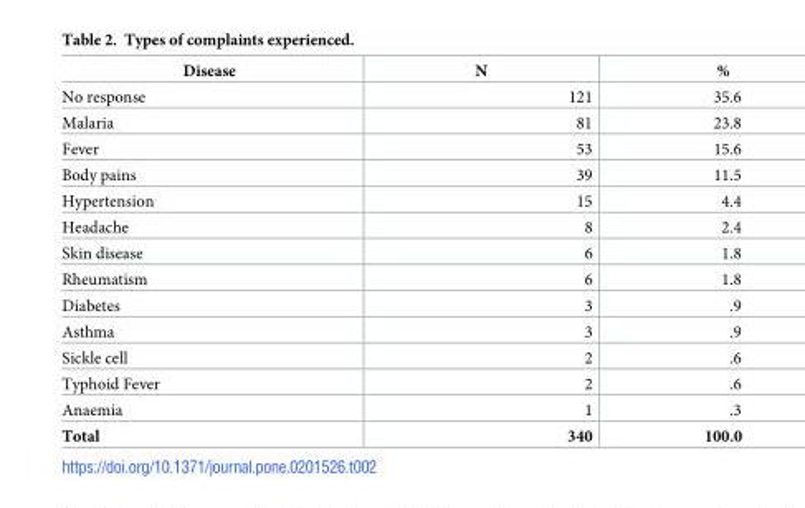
<table><thead><tr><td>Disease</td><td>N</td><td>%</td></tr></thead><tbody><tr><td>No response</td><td>121</td><td>35.6</td></tr><tr><td>Malaria</td><td>81</td><td>23.8</td></tr><tr><td>Fever</td><td>53</td><td>15.6</td></tr><tr><td>Body pains</td><td>39</td><td>11.5</td></tr><tr><td>Hypertension</td><td>15</td><td>4.4</td></tr><tr><td>Headache</td><td>8</td><td>2.4</td></tr><tr><td>Skin disease</td><td>6</td><td>1.8</td></tr><tr><td>Rheumatism</td><td>6</td><td>1.8</td></tr><tr><td>Diabetes</td><td>3</td><td>.9</td></tr><tr><td>Asthma</td><td>3</td><td>.9</td></tr><tr><td>Sickle cell</td><td>2</td><td>.6</td></tr><tr><td>Typhoid Fever</td><td>2</td><td>.6</td></tr><tr><td>Anaemia</td><td>1</td><td>.3</td></tr><tr><td>Total</td><td>340</td><td>100.0</td></tr></tbody></table>